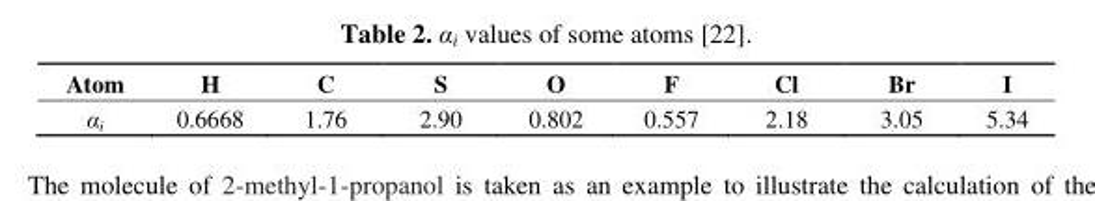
<table><thead><tr><td>Atom</td><td>H</td><td>C</td><td>S</td><td>O</td><td>F</td><td>Cl</td><td>Br</td><td>I</td></tr></thead><tbody><tr><td>α<sub>i</sub></td><td>0.6668</td><td>1.76</td><td>2.90</td><td>0.802</td><td>0.557</td><td>2.18</td><td>3.05</td><td>5.34</td></tr></tbody></table>